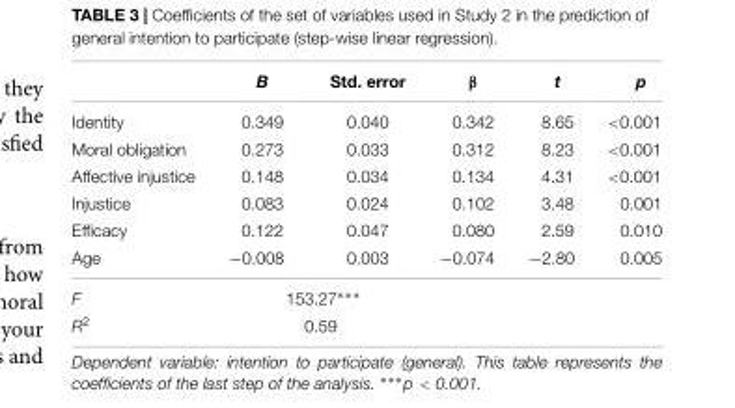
<table><thead><tr><td></td><td>B</td><td>Std. error</td><td>β</td><td>t</td><td>p</td></tr></thead><tbody><tr><td>Identity</td><td>0.349</td><td>0.040</td><td>0.342</td><td>8.65</td><td>&lt;0.001</td></tr><tr><td>Moral obligation</td><td>0.273</td><td>0.033</td><td>0.312</td><td>8.23</td><td>&lt;0.001</td></tr><tr><td>Affective injustice</td><td>0.148</td><td>0.034</td><td>0.134</td><td>4.31</td><td>&lt;0.001</td></tr><tr><td>Injustice</td><td>0.083</td><td>0.024</td><td>0.102</td><td>3.48</td><td>0.001</td></tr><tr><td>Efficacy</td><td>0.122</td><td>0.047</td><td>0.080</td><td>2.59</td><td>0.010</td></tr><tr><td>Age</td><td>−0.008</td><td>0.003</td><td>−0.074</td><td>−2.80</td><td>0.005</td></tr><tr><td>F</td><td colspan="2">153.27∗∗∗</td><td colspan="3"></td></tr><tr><td>R<sup>2</sup></td><td colspan="2">0.59</td><td colspan="3"></td></tr></tbody></table>